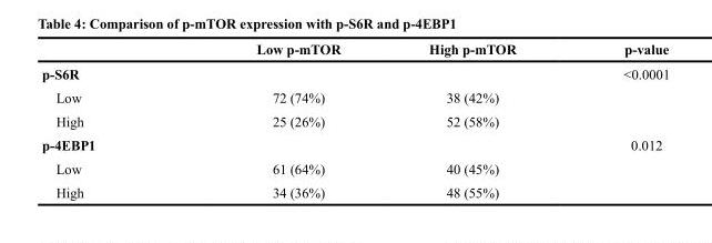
<table><thead><tr><td></td><td>Low p-mTOR</td><td>High p-mTOR</td><td>p-value</td></tr></thead><tbody><tr><td>p-S6R</td><td></td><td></td><td>&lt;0.0001</td></tr><tr><td>Low</td><td>72 (74%)</td><td>38 (42%)</td><td></td></tr><tr><td>High</td><td>25 (26%)</td><td>52 (58%)</td><td></td></tr><tr><td>p-4EBP1</td><td></td><td></td><td>0.012</td></tr><tr><td>Low</td><td>61 (64%)</td><td>40 (45%)</td><td></td></tr><tr><td>High</td><td>34 (36%)</td><td>48 (55%)</td><td></td></tr></tbody></table>